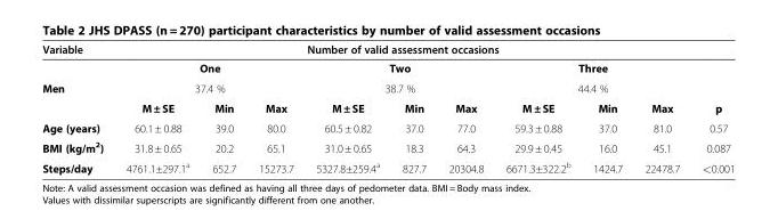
<table><thead><tr><td rowspan="4">Variable Men</td><td colspan="9">Number of valid assessment occasions</td><td rowspan="4">p</td></tr><tr><td rowspan="2" colspan="3">One 37.4 %</td><td rowspan="2" colspan="3">Two 38.7 %</td><td rowspan="2" colspan="3">Three 44.4 %</td></tr><tr></tr><tr><td>M ± SE</td><td>Min</td><td>Max</td><td>M ± SE</td><td>Min</td><td>Max</td><td>M ± SE</td><td>Min</td><td>Max</td></tr></thead><tbody><tr><td>Age (years)</td><td>60.1 ± 0.88</td><td>39.0</td><td>80.0</td><td>60.5 ± 0.82</td><td>37.0</td><td>77.0</td><td>59.3 ± 0.88</td><td>37.0</td><td>81.0</td><td>0.57</td></tr><tr><td>BMI (kg/m<sup>2</sup>)</td><td>31.8 ± 0.65</td><td>20.2</td><td>65.1</td><td>31.0 ± 0.65</td><td>18.3</td><td>64.3</td><td>29.9 ± 0.45</td><td>16.0</td><td>45.1</td><td>0.087</td></tr><tr><td>Steps/day</td><td>4761.1±297.1<sup>a</sup></td><td>652.7</td><td>15273.7</td><td>5327.8±259.4<sup>a</sup></td><td>827.7</td><td>20304.8</td><td>6671.3±322.2<sup>b</sup></td><td>1424.7</td><td>22478.7</td><td>&lt;0.001</td></tr></tbody></table>